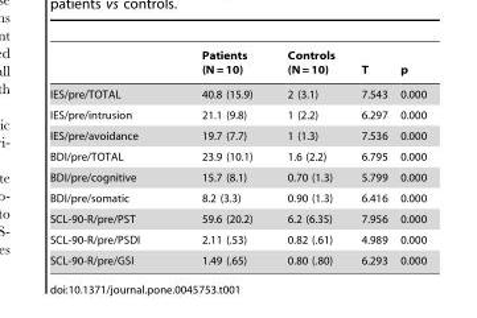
<table><thead><tr><td></td><td>Patients (N = 10)</td><td>Controls (N = 10)</td><td>T</td><td>p</td></tr></thead><tbody><tr><td>IES/pre/TOTAL</td><td>40.8 (15.9)</td><td>2 (3.1)</td><td>7.543</td><td>0.000</td></tr><tr><td>IES/pre/intrusion</td><td>21.1 (9.8)</td><td>1 (2.2)</td><td>6.297</td><td>0.000</td></tr><tr><td>IES/pre/avoidance</td><td>19.7 (7.7)</td><td>1 (1.3)</td><td>7.536</td><td>0.000</td></tr><tr><td>BDI/pre/TOTAL</td><td>23.9 (10.1)</td><td>1.6 (2.2)</td><td>6.795</td><td>0.000</td></tr><tr><td>BDI/pre/cognitive</td><td>15.7 (8.1)</td><td>0.70 (1.3)</td><td>5.799</td><td>0.000</td></tr><tr><td>BDI/pre/somatic</td><td>8.2 (3.3)</td><td>0.90 (1.3)</td><td>6.416</td><td>0.000</td></tr><tr><td>SCL-90-R/pre/PST</td><td>59.6 (20.2)</td><td>6.2 (6.35)</td><td>7.956</td><td>0.000</td></tr><tr><td>SCL-90-R/pre/PSDI</td><td>2.11 (.53)</td><td>0.82 (.61)</td><td>4.989</td><td>0.000</td></tr><tr><td>SCL-90-R/pre/GSI</td><td>1.49 (.65)</td><td>0.80 (.80)</td><td>6.293</td><td>0.000</td></tr></tbody></table>